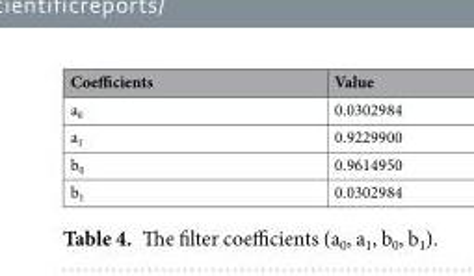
<table><thead><tr><td>Coefficients</td><td>Value</td></tr></thead><tbody><tr><td>a<sub>0</sub></td><td>0.0302984</td></tr><tr><td>a<sub>1</sub></td><td>0.9229900</td></tr><tr><td>b<sub>0</sub></td><td>0.9614950</td></tr><tr><td>b<sub>1</sub></td><td>0.0302984</td></tr></tbody></table>